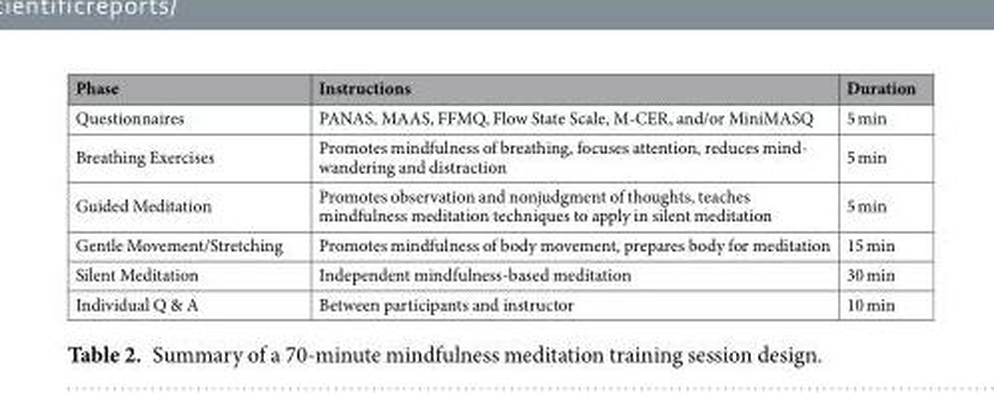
<table><thead><tr><td>Phase</td><td>Instructions</td><td>Duration</td></tr></thead><tbody><tr><td>Questionnaires</td><td>PANAS, MAAS, FFMQ, Flow State Scale, M-CER, and/or MiniMASQ</td><td>5 min</td></tr><tr><td>Breathing Exercises</td><td>Promotes mindfulness of breathing, focuses attention, reduces mind- wandering and distraction</td><td>5 min</td></tr><tr><td>Guided Meditation</td><td>Promotes observation and nonjudgment of thoughts, teaches mindfulness meditation techniques to apply in silent meditation</td><td>5 min</td></tr><tr><td>Gentle Movement/Stretching</td><td>Promotes mindfulness of body movement, prepares body for meditation</td><td>15 min</td></tr><tr><td>Silent Meditation</td><td>Independent mindfulness-based meditation</td><td>30 min</td></tr><tr><td>Individual Q &amp; A</td><td>Between participants and instructor</td><td>10 min</td></tr></tbody></table>